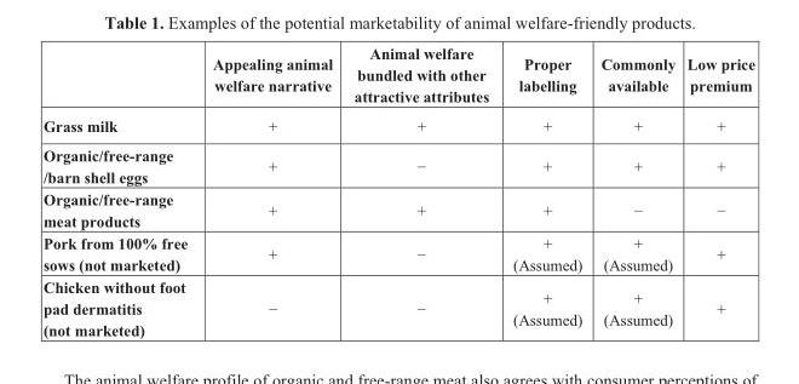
<table><thead><tr><td></td><td>Appealing animal welfare narrative</td><td>Animal welfare bundled with other attractive attributes</td><td>Proper labelling</td><td>Commonly available</td><td>Low price premium</td></tr></thead><tbody><tr><td>Grass milk</td><td>+</td><td>+</td><td>+</td><td>+</td><td>+</td></tr><tr><td>Organic/free-range /barn shell eggs</td><td>+</td><td>−</td><td>+</td><td>+</td><td>+</td></tr><tr><td>Organic/free-range meat products</td><td>+</td><td>+</td><td>+</td><td>−</td><td>−</td></tr><tr><td>Pork from 100% free sows (not marketed)</td><td>+</td><td>−</td><td>+ (Assumed)</td><td>+ (Assumed)</td><td>+</td></tr><tr><td>Chicken without foot pad dermatitis (not marketed)</td><td>−</td><td>−</td><td>+ (Assumed)</td><td>+ (Assumed)</td><td>+</td></tr></tbody></table>